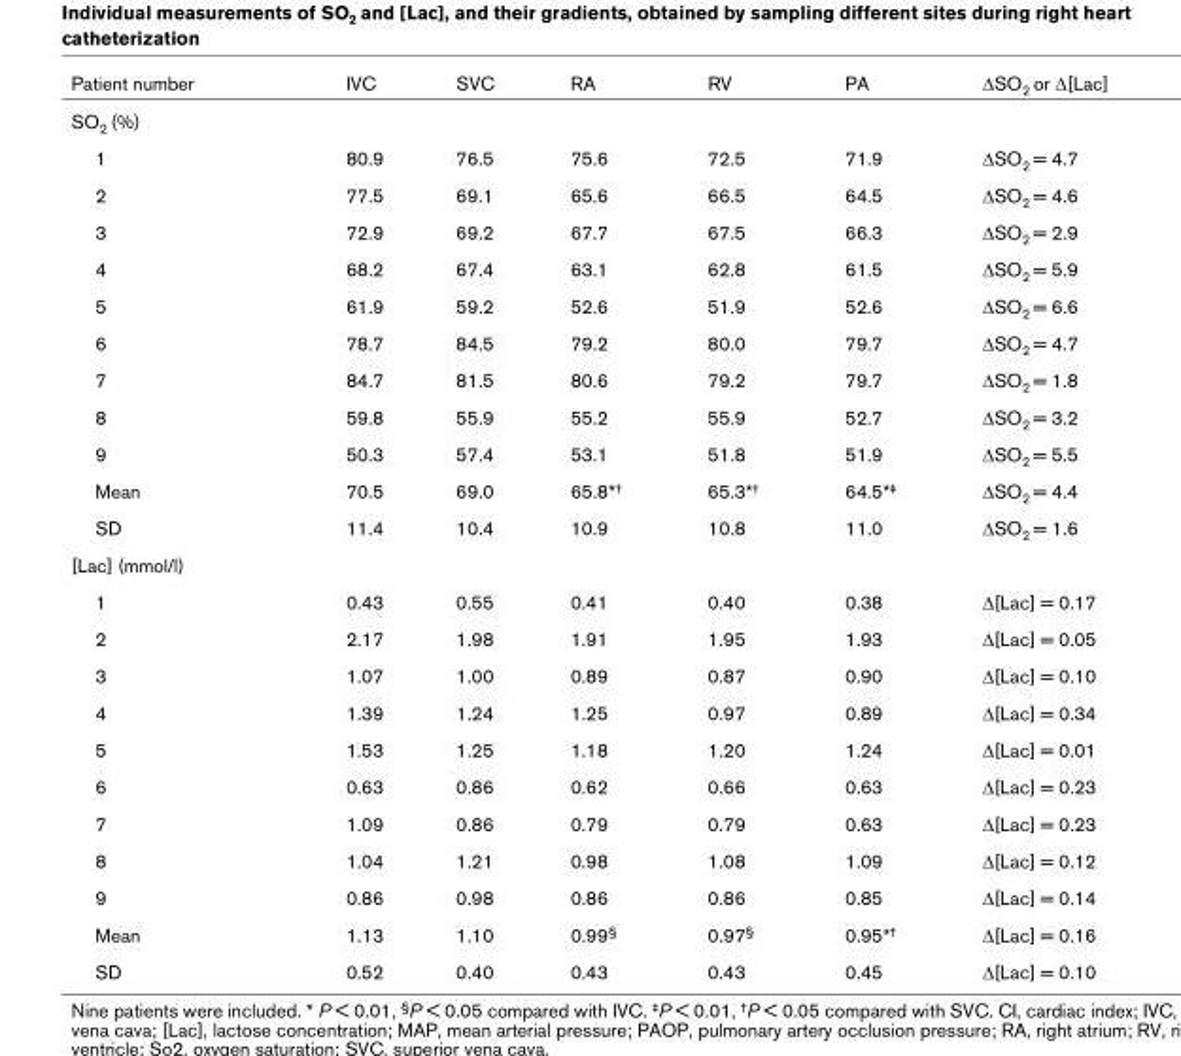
<table><thead><tr><td>Patient number</td><td>IVC</td><td>SVC</td><td>RA</td><td>RV</td><td>PA</td><td>ΔSO<sub>2</sub> or Δ[Lac]</td></tr></thead><tbody><tr><td colspan="7">SO<sub>2</sub> (%)</td></tr><tr><td>1</td><td>80.9</td><td>76.5</td><td>75.6</td><td>72.5</td><td>71.9</td><td>ΔSO<sub>2</sub> = 4.7</td></tr><tr><td>2</td><td>77.5</td><td>69.1</td><td>65.6</td><td>66.5</td><td>64.5</td><td>ΔSO<sub>2</sub> = 4.6</td></tr><tr><td>3</td><td>72.9</td><td>69.2</td><td>67.7</td><td>67.5</td><td>66.3</td><td>ΔSO<sub>2</sub> = 2.9</td></tr><tr><td>4</td><td>68.2</td><td>67.4</td><td>63.1</td><td>62.8</td><td>61.5</td><td>ΔSO<sub>2</sub> = 5.9</td></tr><tr><td>5</td><td>61.9</td><td>59.2</td><td>52.6</td><td>51.9</td><td>52.6</td><td>ΔSO<sub>2</sub> = 6.6</td></tr><tr><td>6</td><td>78.7</td><td>84.5</td><td>79.2</td><td>80.0</td><td>79.7</td><td>ΔSO<sub>2</sub> = 4.7</td></tr><tr><td>7</td><td>84.7</td><td>81.5</td><td>80.6</td><td>79.2</td><td>79.7</td><td>ΔSO<sub>2</sub> = 1.8</td></tr><tr><td>8</td><td>59.8</td><td>55.9</td><td>55.2</td><td>55.9</td><td>52.7</td><td>ΔSO<sub>2</sub> = 3.2</td></tr><tr><td>9</td><td>50.3</td><td>57.4</td><td>53.1</td><td>51.8</td><td>51.9</td><td>ΔSO<sub>2</sub> = 5.5</td></tr><tr><td>Mean</td><td>70.5</td><td>69.0</td><td>65.8*<sup>†</sup></td><td>65.3*<sup>†</sup></td><td>64.5*<sup>‡</sup></td><td>ΔSO<sub>2</sub> = 4.4</td></tr><tr><td>SD</td><td>11.4</td><td>10.4</td><td>10.9</td><td>10.8</td><td>11.0</td><td>ΔSO<sub>2</sub> = 1.6</td></tr><tr><td colspan="7">[Lac] (mmol/l)</td></tr><tr><td>1</td><td>0.43</td><td>0.55</td><td>0.41</td><td>0.40</td><td>0.38</td><td>Δ[Lac] = 0.17</td></tr><tr><td>2</td><td>2.17</td><td>1.98</td><td>1.91</td><td>1.95</td><td>1.93</td><td>Δ[Lac] = 0.05</td></tr><tr><td>3</td><td>1.07</td><td>1.00</td><td>0.89</td><td>0.87</td><td>0.90</td><td>Δ[Lac] = 0.10</td></tr><tr><td>4</td><td>1.39</td><td>1.24</td><td>1.25</td><td>0.97</td><td>0.89</td><td>Δ[Lac] = 0.34</td></tr><tr><td>5</td><td>1.53</td><td>1.25</td><td>1.18</td><td>1.20</td><td>1.24</td><td>Δ[Lac] = 0.01</td></tr><tr><td>6</td><td>0.63</td><td>0.86</td><td>0.62</td><td>0.66</td><td>0.63</td><td>Δ[Lac] = 0.23</td></tr><tr><td>7</td><td>1.09</td><td>0.86</td><td>0.79</td><td>0.79</td><td>0.63</td><td>Δ[Lac] = 0.23</td></tr><tr><td>8</td><td>1.04</td><td>1.21</td><td>0.98</td><td>1.08</td><td>1.09</td><td>Δ[Lac] = 0.12</td></tr><tr><td>9</td><td>0.86</td><td>0.98</td><td>0.86</td><td>0.86</td><td>0.85</td><td>Δ[Lac] = 0.14</td></tr><tr><td>Mean</td><td>1.13</td><td>1.10</td><td>0.99<sup>§</sup></td><td>0.97<sup>§</sup></td><td>0.95*<sup>†</sup></td><td>Δ[Lac] = 0.16</td></tr><tr><td>SD</td><td>0.52</td><td>0.40</td><td>0.43</td><td>0.43</td><td>0.45</td><td>Δ[Lac] = 0.10</td></tr></tbody></table>